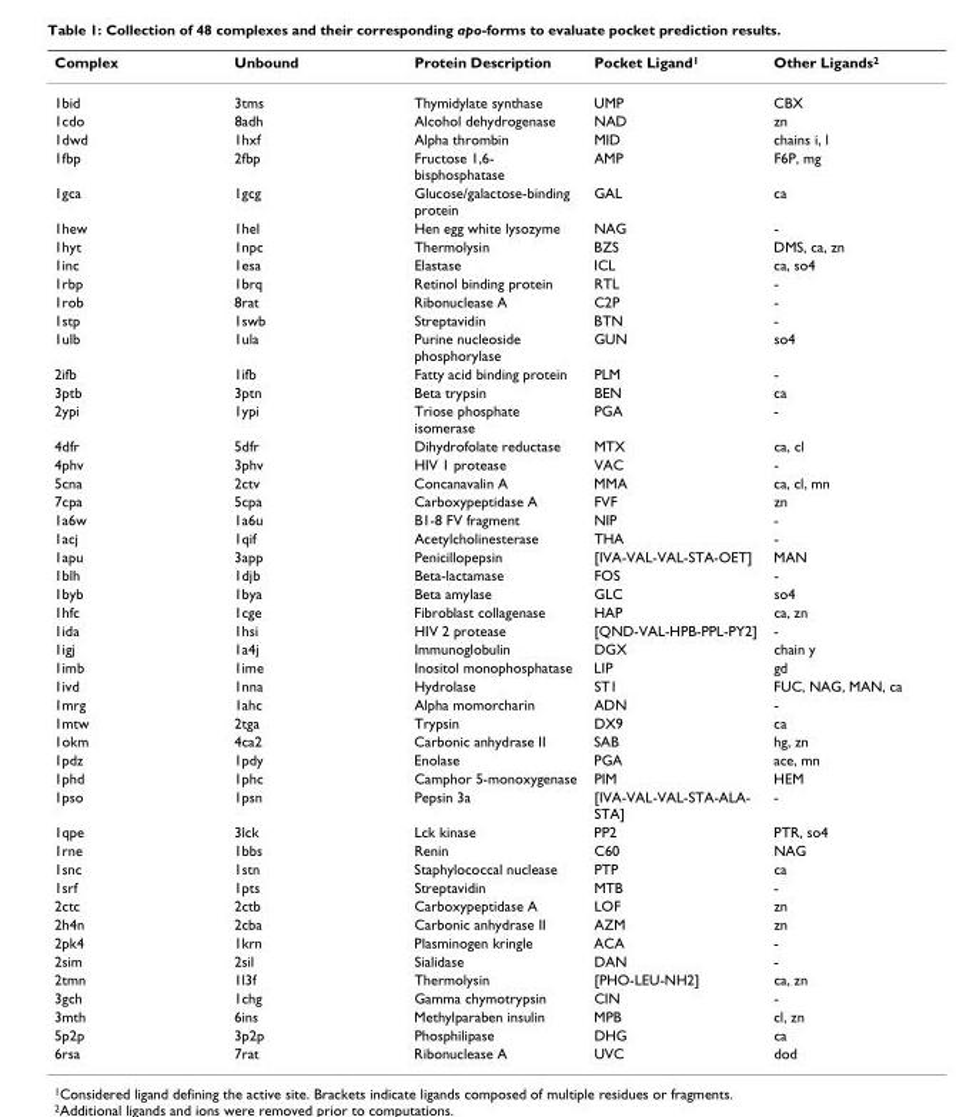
<table><thead><tr><td>Complex</td><td>Unbound</td><td>Protein Description</td><td>Pocket Ligand<sup>1</sup></td><td>Other Ligands<sup>2</sup></td></tr></thead><tbody><tr><td>1bid</td><td>3tms</td><td>Thymidylate synthase</td><td>UMP</td><td>CBX</td></tr><tr><td>1cdo</td><td>8adh</td><td>Alcohol dehydrogenase</td><td>NAD</td><td>zn</td></tr><tr><td>1dwd</td><td>1hxf</td><td>Alpha thrombin</td><td>MID</td><td>chains i, l</td></tr><tr><td>1fbp</td><td>2fbp</td><td>Fructose 1,6- bisphosphatase</td><td>AMP</td><td>F6P, mg</td></tr><tr><td>1gca</td><td>1gcg</td><td>Glucose/galactose-binding protein</td><td>GAL</td><td>ca</td></tr><tr><td>1hew</td><td>1hel</td><td>Hen egg white lysozyme</td><td>NAG</td><td>-</td></tr><tr><td>1hyt</td><td>1npc</td><td>Thermolysin</td><td>BZS</td><td>DMS, ca, zn</td></tr><tr><td>1inc</td><td>1esa</td><td>Elastase</td><td>ICL</td><td>ca, so4</td></tr><tr><td>1rbp</td><td>1brq</td><td>Retinol binding protein</td><td>RTL</td><td>-</td></tr><tr><td>1rob</td><td>8rat</td><td>Ribonuclease A</td><td>C2P</td><td>-</td></tr><tr><td>1stp</td><td>1swb</td><td>Streptavidin</td><td>BTN</td><td>-</td></tr><tr><td>1ulb</td><td>1ula</td><td>Purine nucleoside phosphorylase</td><td>GUN</td><td>so4</td></tr><tr><td>2ifb</td><td>1ifb</td><td>Fatty acid binding protein</td><td>PLM</td><td>-</td></tr><tr><td>3ptb</td><td>3ptn</td><td>Beta trypsin</td><td>BEN</td><td>ca</td></tr><tr><td>2ypi</td><td>1ypi</td><td>Triose phosphate isomerase</td><td>PGA</td><td>-</td></tr><tr><td>4dfr</td><td>5dfr</td><td>Dihydrofolate reductase</td><td>MTX</td><td>ca, cl</td></tr><tr><td>4phv</td><td>3phv</td><td>HIV 1 protease</td><td>VAC</td><td>-</td></tr><tr><td>5cna</td><td>2ctv</td><td>Concanavalin A</td><td>MMA</td><td>ca, cl, mn</td></tr><tr><td>7cpa</td><td>5cpa</td><td>Carboxypeptidase A</td><td>FVF</td><td>zn</td></tr><tr><td>1a6w</td><td>1a6u</td><td>B1-8 FV fragment</td><td>NIP</td><td>-</td></tr><tr><td>1acj</td><td>1qif</td><td>Acetylcholinesterase</td><td>THA</td><td>-</td></tr><tr><td>1apu</td><td>3app</td><td>Penicillopepsin</td><td>[IVA-VAL-VAL-STA-OET]</td><td>MAN</td></tr><tr><td>1blh</td><td>1djb</td><td>Beta-lactamase</td><td>FOS</td><td>-</td></tr><tr><td>1byb</td><td>1bya</td><td>Beta amylase</td><td>GLC</td><td>so4</td></tr><tr><td>1hfc</td><td>1cge</td><td>Fibroblast collagenase</td><td>HAP</td><td>ca, zn</td></tr><tr><td>1ida</td><td>1hsi</td><td>HIV 2 protease</td><td>[QND-VAL-HPB-PPL-PY2]</td><td>-</td></tr><tr><td>1igj</td><td>1a4j</td><td>Immunoglobulin</td><td>DGX</td><td>chain y</td></tr><tr><td>1imb</td><td>1ime</td><td>Inositol monophosphatase</td><td>LIP</td><td>gd</td></tr><tr><td>1ivd</td><td>1nna</td><td>Hydrolase</td><td>ST1</td><td>FUC, NAG, MAN, ca</td></tr><tr><td>1mrg</td><td>1ahc</td><td>Alpha momorcharin</td><td>ADN</td><td>-</td></tr><tr><td>1mtw</td><td>2tga</td><td>Trypsin</td><td>DX9</td><td>ca</td></tr><tr><td>1okm</td><td>4ca2</td><td>Carbonic anhydrase II</td><td>SAB</td><td>hg, zn</td></tr><tr><td>1pdz</td><td>1pdy</td><td>Enolase</td><td>PGA</td><td>ace, mn</td></tr><tr><td>1phd</td><td>1phc</td><td>Camphor 5-monoxygenase</td><td>PIM</td><td>HEM</td></tr><tr><td>1pso</td><td>1psn</td><td>Pepsin 3a</td><td>[IVA-VAL-VAL-STA-ALA- STA]</td><td>-</td></tr><tr><td>1qpe</td><td>3lck</td><td>Lck kinase</td><td>PP2</td><td>PTR, so4</td></tr><tr><td>1rne</td><td>1bbs</td><td>Renin</td><td>C60</td><td>NAG</td></tr><tr><td>1snc</td><td>1stn</td><td>Staphylococcal nuclease</td><td>PTP</td><td>ca</td></tr><tr><td>1srf</td><td>1pts</td><td>Streptavidin</td><td>MTB</td><td>-</td></tr><tr><td>2ctc</td><td>2ctb</td><td>Carboxypeptidase A</td><td>LOF</td><td>zn</td></tr><tr><td>2h4n</td><td>2cba</td><td>Carbonic anhydrase II</td><td>AZM</td><td>zn</td></tr><tr><td>2pk4</td><td>1krn</td><td>Plasminogen kringle</td><td>ACA</td><td>-</td></tr><tr><td>2sim</td><td>2sil</td><td>Sialidase</td><td>DAN</td><td>-</td></tr><tr><td>2tmn</td><td>1l3f</td><td>Thermolysin</td><td>[PHO-LEU-NH2]</td><td>ca, zn</td></tr><tr><td>3gch</td><td>1chg</td><td>Gamma chymotrypsin</td><td>CIN</td><td>-</td></tr><tr><td>3mth</td><td>6ins</td><td>Methylparaben insulin</td><td>MPB</td><td>cl, zn</td></tr><tr><td>5p2p</td><td>3p2p</td><td>Phosphilipase</td><td>DHG</td><td>ca</td></tr><tr><td>6rsa</td><td>7rat</td><td>Ribonuclease A</td><td>UVC</td><td>dod</td></tr></tbody></table>